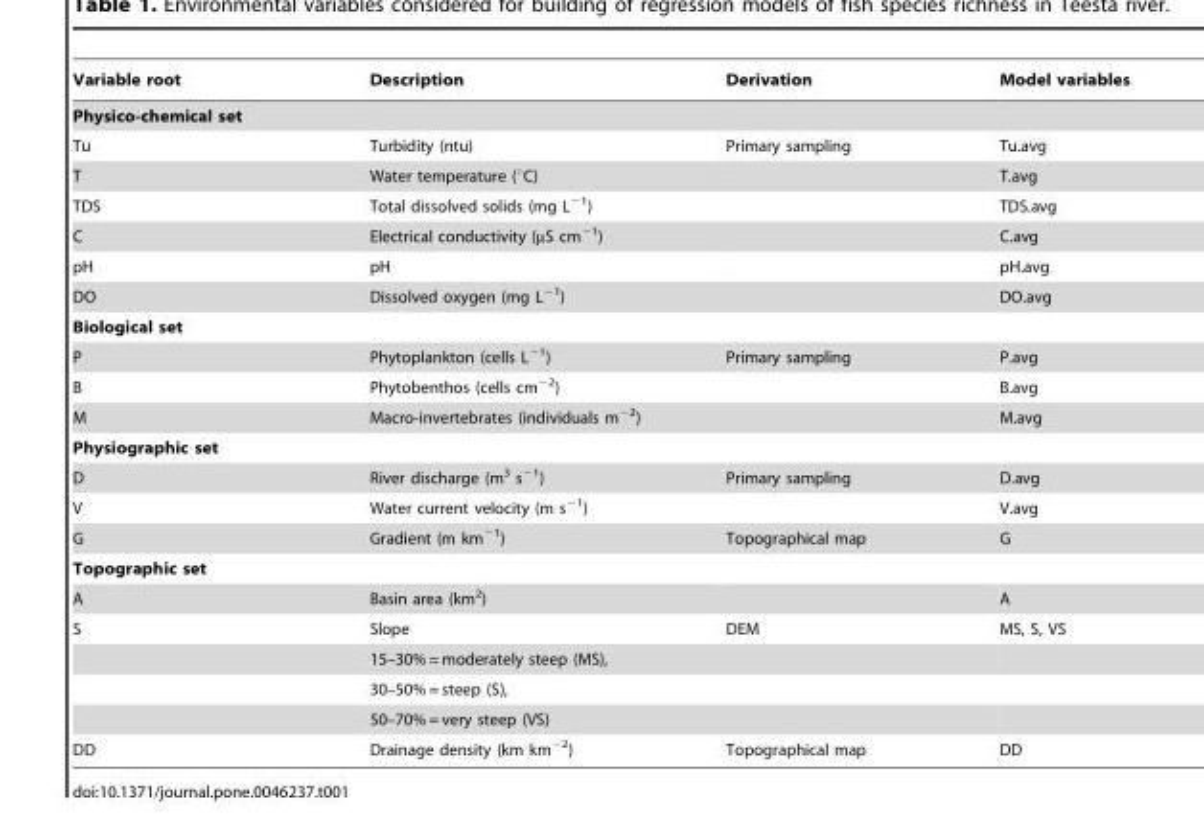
<table><thead><tr><td>Variable root</td><td>Description</td><td>Derivation</td><td>Model variables</td></tr></thead><tbody><tr><td colspan="4">Physico-chemical set</td></tr><tr><td>Tu</td><td>Turbidity (ntu)</td><td>Primary sampling</td><td>Tu.avg</td></tr><tr><td>T</td><td>Water temperature (°C)</td><td></td><td>T.avg</td></tr><tr><td>TDS</td><td>Total dissolved solids (mg L<sup>−1</sup>)</td><td></td><td>TDS.avg</td></tr><tr><td>C</td><td>Electrical conductivity (µS cm<sup>−1</sup>)</td><td></td><td>C.avg</td></tr><tr><td>pH</td><td>pH</td><td></td><td>pH.avg</td></tr><tr><td>DO</td><td>Dissolved oxygen (mg L<sup>−1</sup>)</td><td></td><td>DO.avg</td></tr><tr><td colspan="4">Biological set</td></tr><tr><td>P</td><td>Phytoplankton (cells L<sup>−1</sup>)</td><td>Primary sampling</td><td>P.avg</td></tr><tr><td>B</td><td>Phytobenthos (cells cm<sup>−2</sup>)</td><td></td><td>B.avg</td></tr><tr><td>M</td><td>Macro-invertebrates (individuals m<sup>−2</sup>)</td><td></td><td>M.avg</td></tr><tr><td colspan="4">Physiographic set</td></tr><tr><td>D</td><td>River discharge (m<sup>3</sup> s<sup>−1</sup>)</td><td>Primary sampling</td><td>D.avg</td></tr><tr><td>V</td><td>Water current velocity (m s<sup>−1</sup>)</td><td></td><td>V.avg</td></tr><tr><td>G</td><td>Gradient (m km<sup>−1</sup>)</td><td>Topographical map</td><td>G</td></tr><tr><td colspan="4">Topographic set</td></tr><tr><td>A</td><td>Basin area (km<sup>2</sup>)</td><td></td><td>A</td></tr><tr><td rowspan="4">S</td><td>Slope</td><td>DEM</td><td>MS, S, VS</td></tr><tr><td>15–30% = moderately steep (MS),</td><td></td><td></td></tr><tr><td>30–50% = steep (S),</td><td></td><td></td></tr><tr><td>50–70% = very steep (VS)</td><td></td><td></td></tr><tr><td>DD</td><td>Drainage density (km km<sup>−2</sup>)</td><td>Topographical map</td><td>DD</td></tr></tbody></table>